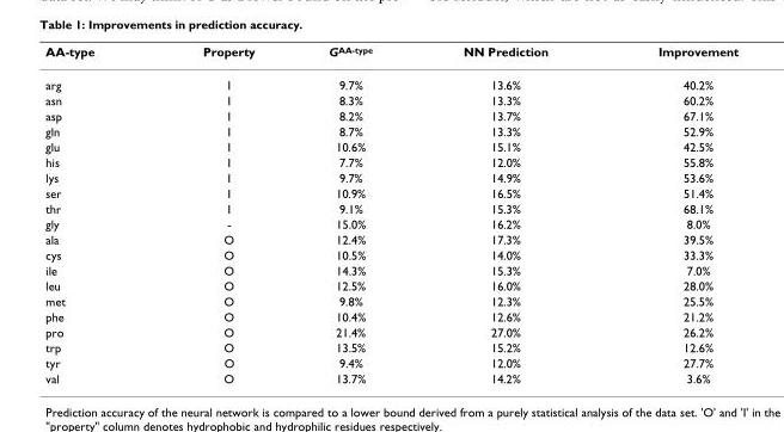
<table><thead><tr><td>AA-type</td><td>Property</td><td>G<sup>AA-type</sup></td><td>NN Prediction</td><td>Improvement</td></tr></thead><tbody><tr><td>arg</td><td>I</td><td>9.7%</td><td>13.6%</td><td>40.2%</td></tr><tr><td>asn</td><td>I</td><td>8.3%</td><td>13.3%</td><td>60.2%</td></tr><tr><td>asp</td><td>I</td><td>8.2%</td><td>13.7%</td><td>67.1%</td></tr><tr><td>gln</td><td>I</td><td>8.7%</td><td>13.3%</td><td>52.9%</td></tr><tr><td>glu</td><td>I</td><td>10.6%</td><td>15.1%</td><td>42.5%</td></tr><tr><td>his</td><td>I</td><td>7.7%</td><td>12.0%</td><td>55.8%</td></tr><tr><td>lys</td><td>I</td><td>9.7%</td><td>14.9%</td><td>53.6%</td></tr><tr><td>ser</td><td>I</td><td>10.9%</td><td>16.5%</td><td>51.4%</td></tr><tr><td>thr</td><td>I</td><td>9.1%</td><td>15.3%</td><td>68.1%</td></tr><tr><td>gly</td><td>-</td><td>15.0%</td><td>16.2%</td><td>8.0%</td></tr><tr><td>ala</td><td>O</td><td>12.4%</td><td>17.3%</td><td>39.5%</td></tr><tr><td>cys</td><td>O</td><td>10.5%</td><td>14.0%</td><td>33.3%</td></tr><tr><td>ile</td><td>O</td><td>14.3%</td><td>15.3%</td><td>7.0%</td></tr><tr><td>leu</td><td>O</td><td>12.5%</td><td>16.0%</td><td>28.0%</td></tr><tr><td>met</td><td>O</td><td>9.8%</td><td>12.3%</td><td>25.5%</td></tr><tr><td>phe</td><td>O</td><td>10.4%</td><td>12.6%</td><td>21.2%</td></tr><tr><td>pro</td><td>O</td><td>21.4%</td><td>27.0%</td><td>26.2%</td></tr><tr><td>trp</td><td>O</td><td>13.5%</td><td>15.2%</td><td>12.6%</td></tr><tr><td>tyr</td><td>O</td><td>9.4%</td><td>12.0%</td><td>27.7%</td></tr><tr><td>val</td><td>O</td><td>13.7%</td><td>14.2%</td><td>3.6%</td></tr></tbody></table>